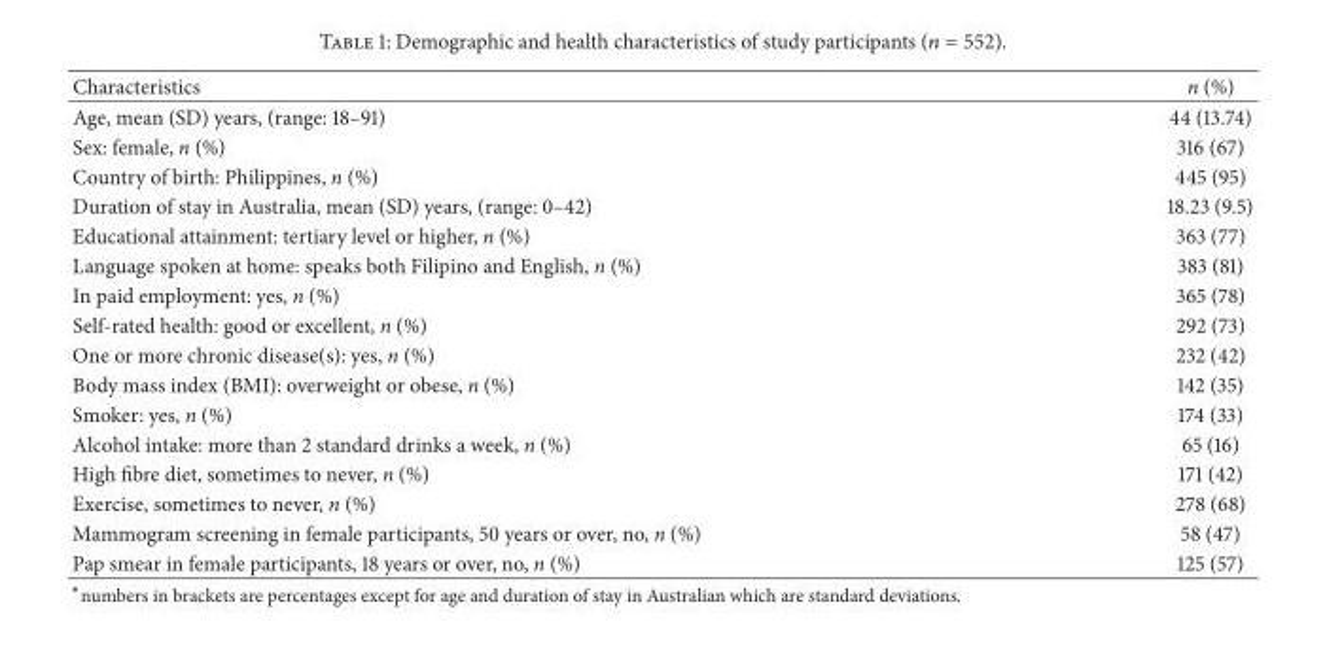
<table><thead><tr><td>Characteristics</td><td>n (%)</td></tr></thead><tbody><tr><td>Age, mean (SD) years, (range: 18–91)</td><td>44 (13.74)</td></tr><tr><td>Sex: female, n (%)</td><td>316 (67)</td></tr><tr><td>Country of birth: Philippines, n (%)</td><td>445 (95)</td></tr><tr><td>Duration of stay in Australia, mean (SD) years, (range: 0–42)</td><td>18.23 (9.5)</td></tr><tr><td>Educational attainment: tertiary level or higher, n (%)</td><td>363 (77)</td></tr><tr><td>Language spoken at home: speaks both Filipino and English, n (%)</td><td>383 (81)</td></tr><tr><td>In paid employment: yes, n (%)</td><td>365 (78)</td></tr><tr><td>Self-rated health: good or excellent, n (%)</td><td>292 (73)</td></tr><tr><td>One or more chronic disease(s): yes, n (%)</td><td>232 (42)</td></tr><tr><td>Body mass index (BMI): overweight or obese, n (%)</td><td>142 (35)</td></tr><tr><td>Smoker: yes, n (%)</td><td>174 (33)</td></tr><tr><td>Alcohol intake: more than 2 standard drinks a week, n (%)</td><td>65 (16)</td></tr><tr><td>High fibre diet, sometimes to never, n (%)</td><td>171 (42)</td></tr><tr><td>Exercise, sometimes to never, n (%)</td><td>278 (68)</td></tr><tr><td>Mammogram screening in female participants, 50 years or over, no, n (%)</td><td>58 (47)</td></tr><tr><td>Pap smear in female participants, 18 years or over, no, n (%)</td><td>125 (57)</td></tr></tbody></table>